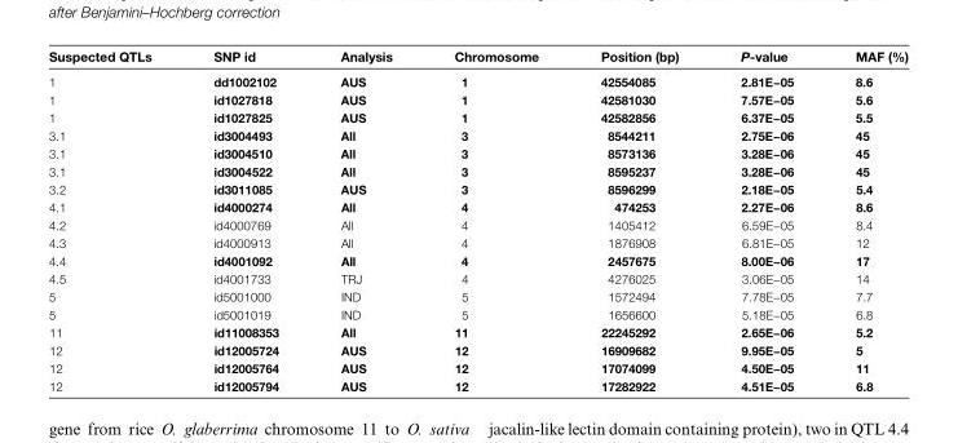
<table><thead><tr><td>Suspected QTLs</td><td>SNP id</td><td>Analysis</td><td>Chromosome</td><td>Position (bp)</td><td>P-value</td><td>MAF (%)</td></tr></thead><tbody><tr><td>1</td><td>dd1002102</td><td>AUS</td><td>1</td><td>42554085</td><td>2.81E−05</td><td>8.6</td></tr><tr><td>1</td><td>id1027818</td><td>AUS</td><td>1</td><td>42581030</td><td>7.57E−05</td><td>5.6</td></tr><tr><td>1</td><td>id1027825</td><td>AUS</td><td>1</td><td>42582856</td><td>6.37E−05</td><td>5.5</td></tr><tr><td>3.1</td><td>id3004493</td><td>All</td><td>3</td><td>8544211</td><td>2.75E−06</td><td>45</td></tr><tr><td>3.1</td><td>id3004510</td><td>All</td><td>3</td><td>8573136</td><td>3.28E−06</td><td>45</td></tr><tr><td>3.1</td><td>id3004522</td><td>All</td><td>3</td><td>8595237</td><td>3.28E−06</td><td>45</td></tr><tr><td>3.2</td><td>id3011085</td><td>AUS</td><td>3</td><td>8596299</td><td>2.18E−05</td><td>5.4</td></tr><tr><td>4.1</td><td>id4000274</td><td>All</td><td>4</td><td>474253</td><td>2.27E−06</td><td>8.6</td></tr><tr><td>4.2</td><td>id4000769</td><td>All</td><td>4</td><td>1405412</td><td>6.59E−05</td><td>8.4</td></tr><tr><td>4.3</td><td>id4000913</td><td>All</td><td>4</td><td>1876908</td><td>6.81E−05</td><td>12</td></tr><tr><td>4.4</td><td>id4001092</td><td>All</td><td>4</td><td>2457675</td><td>8.00E−06</td><td>17</td></tr><tr><td>4.5</td><td>id4001733</td><td>TRJ</td><td>4</td><td>4276025</td><td>3.06E−05</td><td>14</td></tr><tr><td>5</td><td>id5001000</td><td>IND</td><td>5</td><td>1572494</td><td>7.78E−05</td><td>7.7</td></tr><tr><td>5</td><td>id5001019</td><td>IND</td><td>5</td><td>1656600</td><td>5.18E−05</td><td>6.8</td></tr><tr><td>11</td><td>id11008353</td><td>All</td><td>11</td><td>22245292</td><td>2.65E−06</td><td>5.2</td></tr><tr><td>12</td><td>id12005724</td><td>AUS</td><td>12</td><td>16909682</td><td>9.95E−05</td><td>5</td></tr><tr><td>12</td><td>id12005764</td><td>AUS</td><td>12</td><td>17074099</td><td>4.50E−05</td><td>11</td></tr><tr><td>12</td><td>id12005794</td><td>AUS</td><td>12</td><td>17282922</td><td>4.51E−05</td><td>6.8</td></tr></tbody></table>